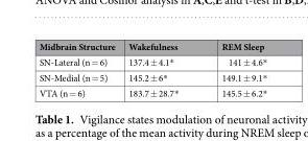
<table><thead><tr><td>Midbrain Structure</td><td>Wakefulness</td><td>REM Sleep</td></tr></thead><tbody><tr><td>SN-Lateral (n = 6)</td><td>137.4 ± 4.1*</td><td>141 ± 4.6*</td></tr><tr><td>SN-Medial (n = 5)</td><td>145.2 ± 6*</td><td>149.1 ± 9.1*</td></tr><tr><td>VTA (n = 6)</td><td>183.7 ± 28.7*</td><td>145.5 ± 6.2*</td></tr></tbody></table>